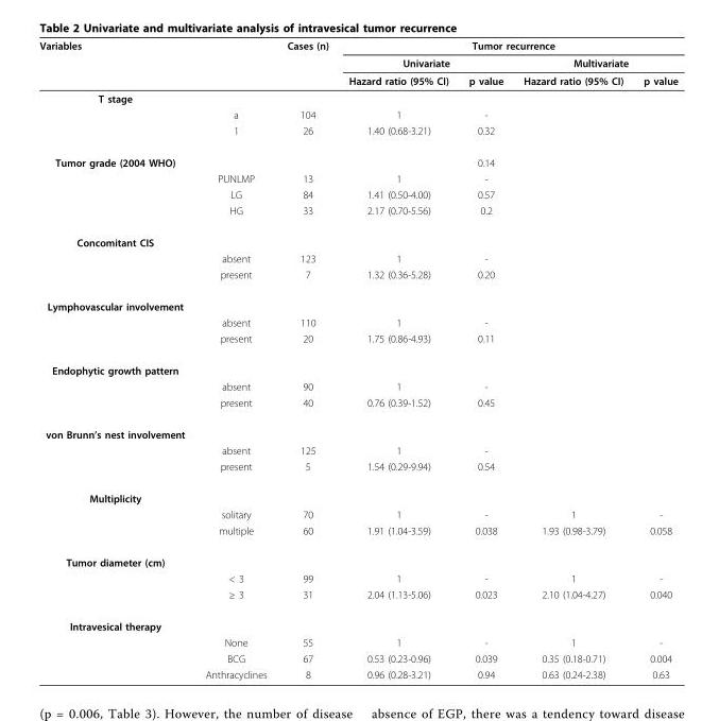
<table><thead><tr><td colspan="2">Variables</td><td rowspan="3">Cases (n)</td><td colspan="4">Tumor recurrence</td></tr><tr><td rowspan="2"></td><td rowspan="2"></td><td colspan="2">Univariate</td><td colspan="2">Multivariate</td></tr><tr><td>Hazard ratio (95% CI)</td><td>p value</td><td>Hazard ratio (95% CI)</td><td>p value</td></tr></thead><tbody><tr><td colspan="7">T stage</td></tr><tr><td></td><td>a</td><td>104</td><td>1</td><td>-</td><td></td><td></td></tr><tr><td></td><td>1</td><td>26</td><td>1.40 (0.68-3.21)</td><td>0.32</td><td></td><td></td></tr><tr><td rowspan="4">Tumor grade (2004 WHO)</td><td></td><td></td><td></td><td>0.14</td><td></td><td></td></tr><tr><td>PUNLMP</td><td>13</td><td>1</td><td>-</td><td></td><td></td></tr><tr><td>LG</td><td>84</td><td>1.41 (0.50-4.00)</td><td>0.57</td><td></td><td></td></tr><tr><td>HG</td><td>33</td><td>2.17 (0.70-5.56)</td><td>0.2</td><td></td><td></td></tr><tr><td colspan="7">Concomitant CIS</td></tr><tr><td></td><td>absent</td><td>123</td><td>1</td><td>-</td><td></td><td></td></tr><tr><td></td><td>present</td><td>7</td><td>1.32 (0.36-5.28)</td><td>0.20</td><td></td><td></td></tr><tr><td colspan="7">Lymphovascular involvement</td></tr><tr><td></td><td>absent</td><td>110</td><td>1</td><td>-</td><td></td><td></td></tr><tr><td></td><td>present</td><td>20</td><td>1.75 (0.86-4.93)</td><td>0.11</td><td></td><td></td></tr><tr><td colspan="7">Endophytic growth pattern</td></tr><tr><td></td><td>absent</td><td>90</td><td>1</td><td>-</td><td></td><td></td></tr><tr><td></td><td>present</td><td>40</td><td>0.76 (0.39-1.52)</td><td>0.45</td><td></td><td></td></tr><tr><td colspan="7">von Brunn’s nest involvement</td></tr><tr><td></td><td>absent</td><td>125</td><td>1</td><td>-</td><td></td><td></td></tr><tr><td></td><td>present</td><td>5</td><td>1.54 (0.29-9.94)</td><td>0.54</td><td></td><td></td></tr><tr><td colspan="7">Multiplicity</td></tr><tr><td></td><td>solitary</td><td>70</td><td>1</td><td>-</td><td>1</td><td>-</td></tr><tr><td></td><td>multiple</td><td>60</td><td>1.91 (1.04-3.59)</td><td>0.038</td><td>1.93 (0.98-3.79)</td><td>0.058</td></tr><tr><td colspan="7">Tumor diameter (cm)</td></tr><tr><td></td><td>&lt; 3</td><td>99</td><td>1</td><td>-</td><td>1</td><td>-</td></tr><tr><td></td><td>≥ 3</td><td>31</td><td>2.04 (1.13-5.06)</td><td>0.023</td><td>2.10 (1.04-4.27)</td><td>0.040</td></tr><tr><td colspan="7">Intravesical therapy</td></tr><tr><td></td><td>None</td><td>55</td><td>1</td><td>-</td><td>1</td><td>-</td></tr><tr><td></td><td>BCG</td><td>67</td><td>0.53 (0.23-0.96)</td><td>0.039</td><td>0.35 (0.18-0.71)</td><td>0.004</td></tr><tr><td></td><td>Anthracyclines</td><td>8</td><td>0.96 (0.28-3.21)</td><td>0.94</td><td>0.63 (0.24-2.38)</td><td>0.63</td></tr></tbody></table>